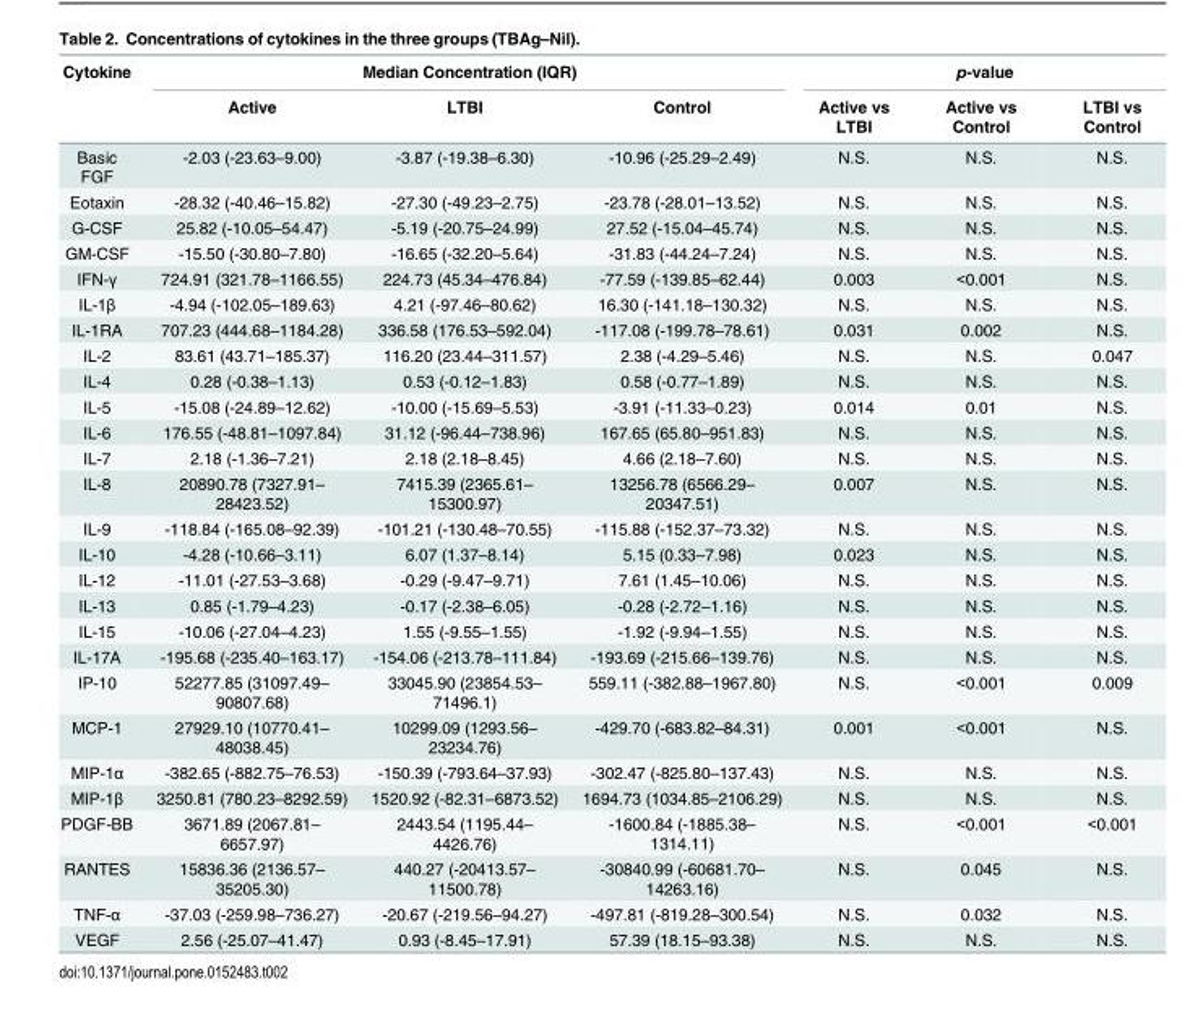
<table><thead><tr><td rowspan="2">Cytokine</td><td colspan="3">Median Concentration (IQR)</td><td colspan="3">p-value</td></tr><tr><td>Active</td><td>LTBI</td><td>Control</td><td>Active vs LTBI</td><td>Active vs Control</td><td>LTBI vs Control</td></tr></thead><tbody><tr><td>Basic FGF</td><td>-2.03 (-23.63–9.00)</td><td>-3.87 (-19.38–6.30)</td><td>-10.96 (-25.29–2.49)</td><td>N.S.</td><td>N.S.</td><td>N.S.</td></tr><tr><td>Eotaxin</td><td>-28.32 (-40.46–15.82)</td><td>-27.30 (-49.23–2.75)</td><td>-23.78 (-28.01–13.52)</td><td>N.S.</td><td>N.S.</td><td>N.S.</td></tr><tr><td>G-CSF</td><td>25.82 (-10.05–54.47)</td><td>-5.19 (-20.75–24.99)</td><td>27.52 (-15.04–45.74)</td><td>N.S.</td><td>N.S.</td><td>N.S.</td></tr><tr><td>GM-CSF</td><td>-15.50 (-30.80–7.80)</td><td>-16.65 (-32.20–5.64)</td><td>-31.83 (-44.24–7.24)</td><td>N.S.</td><td>N.S.</td><td>N.S.</td></tr><tr><td>IFN-γ</td><td>724.91 (321.78–1166.55)</td><td>224.73 (45.34–476.84)</td><td>-77.59 (-139.85–62.44)</td><td>0.003</td><td>&lt;0.001</td><td>N.S.</td></tr><tr><td>IL-1β</td><td>-4.94 (-102.05–189.63)</td><td>4.21 (-97.46–80.62)</td><td>16.30 (-141.18–130.32)</td><td>N.S.</td><td>N.S.</td><td>N.S.</td></tr><tr><td>IL-1RA</td><td>707.23 (444.68–1184.28)</td><td>336.58 (176.53–592.04)</td><td>-117.08 (-199.78–78.61)</td><td>0.031</td><td>0.002</td><td>N.S.</td></tr><tr><td>IL-2</td><td>83.61 (43.71–185.37)</td><td>116.20 (23.44–311.57)</td><td>2.38 (-4.29–5.46)</td><td>N.S.</td><td>N.S.</td><td>0.047</td></tr><tr><td>IL-4</td><td>0.28 (-0.38–1.13)</td><td>0.53 (-0.12–1.83)</td><td>0.58 (-0.77–1.89)</td><td>N.S.</td><td>N.S.</td><td>N.S.</td></tr><tr><td>IL-5</td><td>-15.08 (-24.89–12.62)</td><td>-10.00 (-15.69–5.53)</td><td>-3.91 (-11.33–0.23)</td><td>0.014</td><td>0.01</td><td>N.S.</td></tr><tr><td>IL-6</td><td>176.55 (-48.81–1097.84)</td><td>31.12 (-96.44–738.96)</td><td>167.65 (65.80–951.83)</td><td>N.S.</td><td>N.S.</td><td>N.S.</td></tr><tr><td>IL-7</td><td>2.18 (-1.36–7.21)</td><td>2.18 (2.18–8.45)</td><td>4.66 (2.18–7.60)</td><td>N.S.</td><td>N.S.</td><td>N.S.</td></tr><tr><td>IL-8</td><td>20890.78 (7327.91– 28423.52)</td><td>7415.39 (2365.61– 15300.97)</td><td>13256.78 (6566.29– 20347.51)</td><td>0.007</td><td>N.S.</td><td>N.S.</td></tr><tr><td>IL-9</td><td>-118.84 (-165.08–92.39)</td><td>-101.21 (-130.48–70.55)</td><td>-115.88 (-152.37–73.32)</td><td>N.S.</td><td>N.S.</td><td>N.S.</td></tr><tr><td>IL-10</td><td>-4.28 (-10.66–3.11)</td><td>6.07 (1.37–8.14)</td><td>5.15 (0.33–7.98)</td><td>0.023</td><td>N.S.</td><td>N.S.</td></tr><tr><td>IL-12</td><td>-11.01 (-27.53–3.68)</td><td>-0.29 (-9.47–9.71)</td><td>7.61 (1.45–10.06)</td><td>N.S.</td><td>N.S.</td><td>N.S.</td></tr><tr><td>IL-13</td><td>0.85 (-1.79–4.23)</td><td>-0.17 (-2.38–6.05)</td><td>-0.28 (-2.72–1.16)</td><td>N.S.</td><td>N.S.</td><td>N.S.</td></tr><tr><td>IL-15</td><td>-10.06 (-27.04–4.23)</td><td>1.55 (-9.55–1.55)</td><td>-1.92 (-9.94–1.55)</td><td>N.S.</td><td>N.S.</td><td>N.S.</td></tr><tr><td>IL-17A</td><td>-195.68 (-235.40–163.17)</td><td>-154.06 (-213.78–111.84)</td><td>-193.69 (-215.66–139.76)</td><td>N.S.</td><td>N.S.</td><td>N.S.</td></tr><tr><td>IP-10</td><td>52277.85 (31097.49– 90807.68)</td><td>33045.90 (23854.53– 71496.1)</td><td>559.11 (-382.88–1967.80)</td><td>N.S.</td><td>&lt;0.001</td><td>0.009</td></tr><tr><td>MCP-1</td><td>27929.10 (10770.41– 48038.45)</td><td>10299.09 (1293.56– 23234.76)</td><td>-429.70 (-683.82–84.31)</td><td>0.001</td><td>&lt;0.001</td><td>N.S.</td></tr><tr><td>MIP-1α</td><td>-382.65 (-882.75–76.53)</td><td>-150.39 (-793.64–37.93)</td><td>-302.47 (-825.80–137.43)</td><td>N.S.</td><td>N.S.</td><td>N.S.</td></tr><tr><td>MIP-1β</td><td>3250.81 (780.23–8292.59)</td><td>1520.92 (-82.31–6873.52)</td><td>1694.73 (1034.85–2106.29)</td><td>N.S.</td><td>N.S.</td><td>N.S.</td></tr><tr><td>PDGF-BB</td><td>3671.89 (2067.81– 6657.97)</td><td>2443.54 (1195.44– 4426.76)</td><td>-1600.84 (-1885.38– 1314.11)</td><td>N.S.</td><td>&lt;0.001</td><td>&lt;0.001</td></tr><tr><td>RANTES</td><td>15836.36 (2136.57– 35205.30)</td><td>440.27 (-20413.57– 11500.78)</td><td>-30840.99 (-60681.70– 14263.16)</td><td>N.S.</td><td>0.045</td><td>N.S.</td></tr><tr><td>TNF-α</td><td>-37.03 (-259.98–736.27)</td><td>-20.67 (-219.56–94.27)</td><td>-497.81 (-819.28–300.54)</td><td>N.S.</td><td>0.032</td><td>N.S.</td></tr><tr><td>VEGF</td><td>2.56 (-25.07–41.47)</td><td>0.93 (-8.45–17.91)</td><td>57.39 (18.15–93.38)</td><td>N.S.</td><td>N.S.</td><td>N.S.</td></tr></tbody></table>